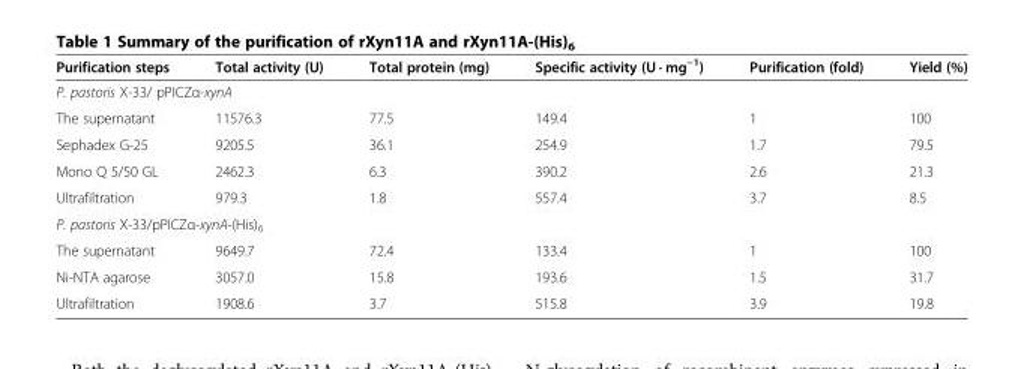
<table><thead><tr><td>Purification steps</td><td>Total activity (U)</td><td>Total protein (mg)</td><td>Specific activity (U · mg<sup>−1</sup>)</td><td>Purification (fold)</td><td>Yield (%)</td></tr></thead><tbody><tr><td colspan="6">P. pastoris X-33/ pPICZα-xynA</td></tr><tr><td>The supernatant</td><td>11576.3</td><td>77.5</td><td>149.4</td><td>1</td><td>100</td></tr><tr><td>Sephadex G-25</td><td>9205.5</td><td>36.1</td><td>254.9</td><td>1.7</td><td>79.5</td></tr><tr><td>Mono Q 5/50 GL</td><td>2462.3</td><td>6.3</td><td>390.2</td><td>2.6</td><td>21.3</td></tr><tr><td>Ultrafiltration</td><td>979.3</td><td>1.8</td><td>557.4</td><td>3.7</td><td>8.5</td></tr><tr><td colspan="6">P. pastoris X-33/pPICZα-xynA-(His)<sub>6</sub></td></tr><tr><td>The supernatant</td><td>9649.7</td><td>72.4</td><td>133.4</td><td>1</td><td>100</td></tr><tr><td>Ni-NTA agarose</td><td>3057.0</td><td>15.8</td><td>193.6</td><td>1.5</td><td>31.7</td></tr><tr><td>Ultrafiltration</td><td>1908.6</td><td>3.7</td><td>515.8</td><td>3.9</td><td>19.8</td></tr></tbody></table>